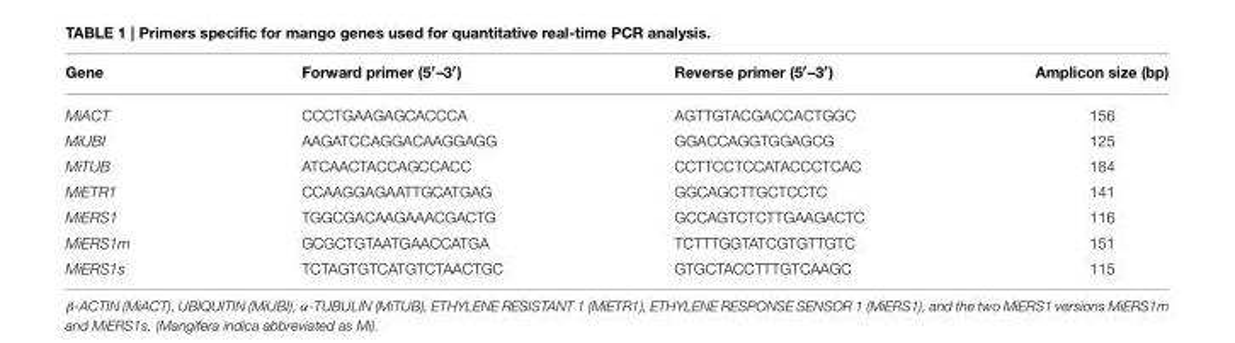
<table><thead><tr><td>Gene</td><td>Forward primer (5′–3′)</td><td>Reverse primer (5′–3′)</td><td>Amplicon size (bp)</td></tr></thead><tbody><tr><td>MiACT</td><td>CCCTGAAGAGCACCCA</td><td>AGTTGTACGACCACTGGC</td><td>156</td></tr><tr><td>MiUBI</td><td>AAGATCCAGGACAAGGAGG</td><td>GGACCAGGTGGAGCG</td><td>125</td></tr><tr><td>MiTUB</td><td>ATCAACTACCAGCCACC</td><td>CCTTCCTCCATACCCTCAC</td><td>184</td></tr><tr><td>MiETR1</td><td>CCAAGGAGAATTGCATGAG</td><td>GGCAGCTTGCTCCTC</td><td>141</td></tr><tr><td>MiERS1</td><td>TGGCGACAAGAAACGACTG</td><td>GCCAGTCTCTTGAAGACTC</td><td>116</td></tr><tr><td>MiERS1m</td><td>GCGCTGTAATGAACCATGA</td><td>TCTTTGGTATCGTGTTGTC</td><td>151</td></tr><tr><td>MiERS1s</td><td>TCTAGTGTCATGTCTAACTGC</td><td>GTGCTACCTTTGTCAAGC</td><td>115</td></tr></tbody></table>